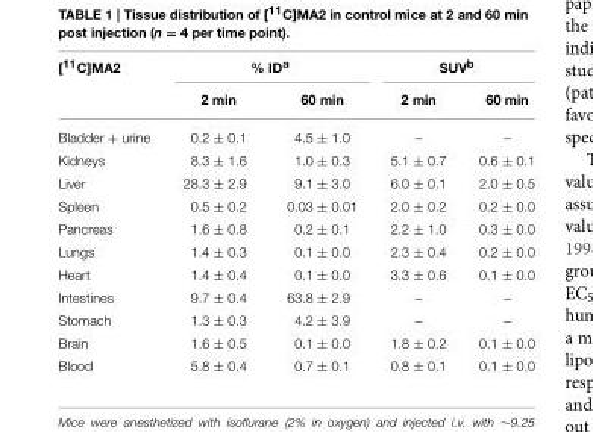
<table><thead><tr><td rowspan="2">[<sup>11</sup>C]MA2</td><td colspan="2">% ID<sup>a</sup></td><td colspan="2">SUV<sup>b</sup></td></tr><tr><td>2 min</td><td>60 min</td><td>2 min</td><td>60 min</td></tr></thead><tbody><tr><td>Bladder + urine</td><td>0.2 ± 0.1</td><td>4.5 ± 1.0</td><td>–</td><td>–</td></tr><tr><td>Kidneys</td><td>8.3 ± 1.6</td><td>1.0 ± 0.3</td><td>5.1 ± 0.7</td><td>0.6 ± 0.1</td></tr><tr><td>Liver</td><td>28.3 ± 2.9</td><td>9.1 ± 3.0</td><td>6.0 ± 0.1</td><td>2.0 ± 0.5</td></tr><tr><td>Spleen</td><td>0.5 ± 0.2</td><td>0.03 ± 0.01</td><td>2.0 ± 0.2</td><td>0.2 ± 0.0</td></tr><tr><td>Pancreas</td><td>1.6 ± 0.8</td><td>0.2 ± 0.1</td><td>2.2 ± 1.0</td><td>0.3 ± 0.0</td></tr><tr><td>Lungs</td><td>1.4 ± 0.3</td><td>0.1 ± 0.0</td><td>2.3 ± 0.4</td><td>0.2 ± 0.0</td></tr><tr><td>Heart</td><td>1.4 ± 0.4</td><td>0.1 ± 0.0</td><td>3.3 ± 0.6</td><td>0.1 ± 0.0</td></tr><tr><td>Intestines</td><td>9.7 ± 0.4</td><td>63.8 ± 2.9</td><td>–</td><td>–</td></tr><tr><td>Stomach</td><td>1.3 ± 0.3</td><td>4.2 ± 3.9</td><td>–</td><td>–</td></tr><tr><td>Brain</td><td>1.6 ± 0.5</td><td>0.1 ± 0.0</td><td>1.8 ± 0.2</td><td>0.1 ± 0.0</td></tr><tr><td>Blood</td><td>5.8 ± 0.4</td><td>0.7 ± 0.1</td><td>0.8 ± 0.1</td><td>0.1 ± 0.0</td></tr></tbody></table>